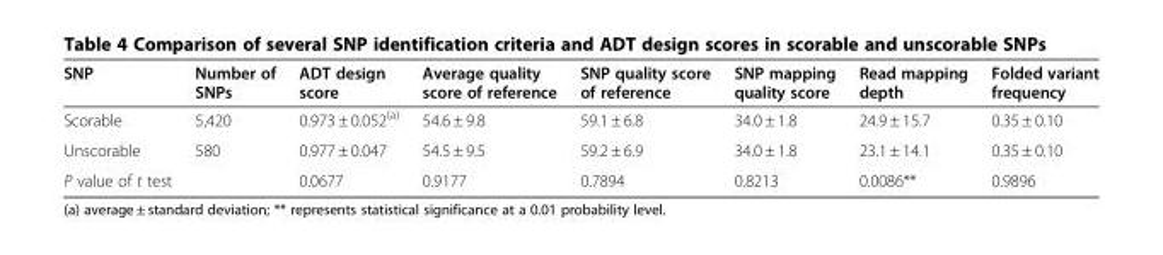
<table><thead><tr><td>SNP</td><td>Number of SNPs</td><td>ADT design score</td><td>Average quality score of reference</td><td>SNP quality score of reference</td><td>SNP mapping quality score</td><td>Read mapping depth</td><td>Folded variant frequency</td></tr></thead><tbody><tr><td>Scorable</td><td>5,420</td><td>0.973 ± 0.052<sup>(a)</sup></td><td>54.6 ± 9.8</td><td>59.1 ± 6.8</td><td>34.0 ± 1.8</td><td>24.9 ± 15.7</td><td>0.35 ± 0.10</td></tr><tr><td>Unscorable</td><td>580</td><td>0.977 ± 0.047</td><td>54.5 ± 9.5</td><td>59.2 ± 6.9</td><td>34.0 ± 1.8</td><td>23.1 ± 14.1</td><td>0.35 ± 0.10</td></tr><tr><td>P value of t test</td><td></td><td>0.0677</td><td>0.9177</td><td>0.7894</td><td>0.8213</td><td>0.0086**</td><td>0.9896</td></tr></tbody></table>